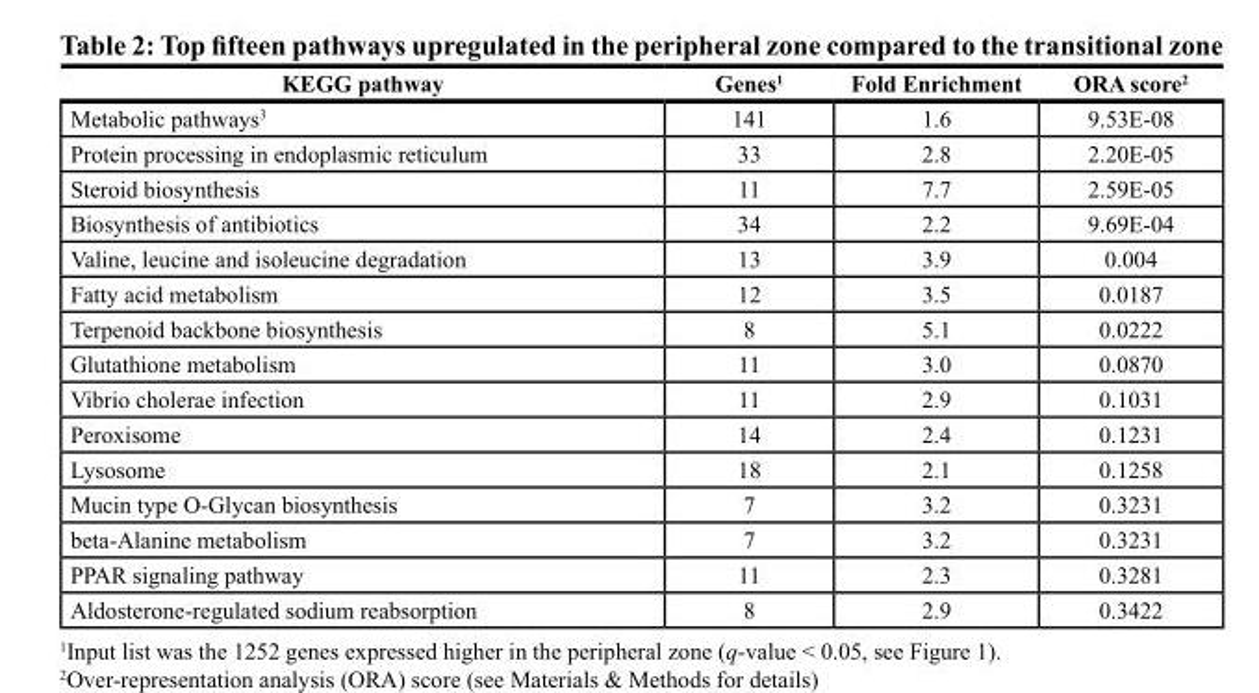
<table><thead><tr><td>KEGG pathway</td><td>Genes<sup>1</sup></td><td>Fold Enrichment</td><td>ORA score<sup>2</sup></td></tr></thead><tbody><tr><td>Metabolic pathways<sup>3</sup></td><td>141</td><td>1.6</td><td>9.53E-08</td></tr><tr><td>Protein processing in endoplasmic reticulum</td><td>33</td><td>2.8</td><td>2.20E-05</td></tr><tr><td>Steroid biosynthesis</td><td>11</td><td>7.7</td><td>2.59E-05</td></tr><tr><td>Biosynthesis of antibiotics</td><td>34</td><td>2.2</td><td>9.69E-04</td></tr><tr><td>Valine, leucine and isoleucine degradation</td><td>13</td><td>3.9</td><td>0.004</td></tr><tr><td>Fatty acid metabolism</td><td>12</td><td>3.5</td><td>0.0187</td></tr><tr><td>Terpenoid backbone biosynthesis</td><td>8</td><td>5.1</td><td>0.0222</td></tr><tr><td>Glutathione metabolism</td><td>11</td><td>3.0</td><td>0.0870</td></tr><tr><td>Vibrio cholerae infection</td><td>11</td><td>2.9</td><td>0.1031</td></tr><tr><td>Peroxisome</td><td>14</td><td>2.4</td><td>0.1231</td></tr><tr><td>Lysosome</td><td>18</td><td>2.1</td><td>0.1258</td></tr><tr><td>Mucin type O-Glycan biosynthesis</td><td>7</td><td>3.2</td><td>0.3231</td></tr><tr><td>beta-Alanine metabolism</td><td>7</td><td>3.2</td><td>0.3231</td></tr><tr><td>PPAR signaling pathway</td><td>11</td><td>2.3</td><td>0.3281</td></tr><tr><td>Aldosterone-regulated sodium reabsorption</td><td>8</td><td>2.9</td><td>0.3422</td></tr></tbody></table>